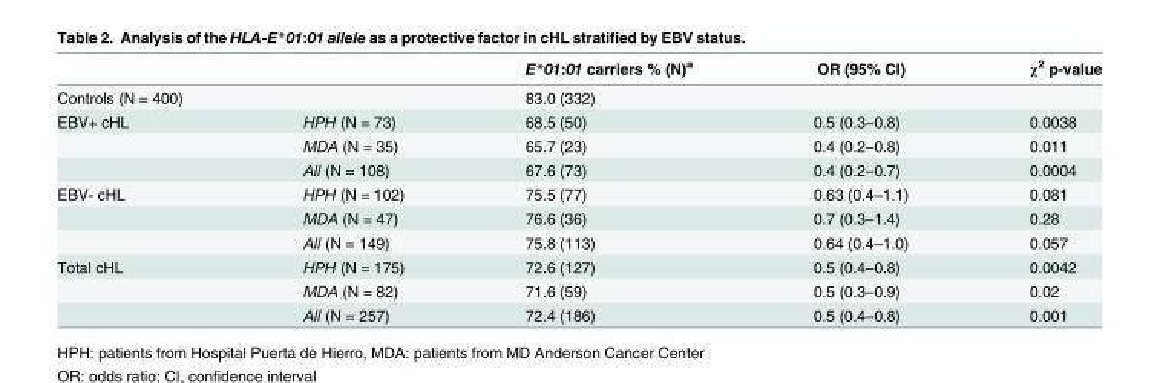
<table><thead><tr><td></td><td></td><td>E*01:01 carriers % (N)<sup>a</sup></td><td>OR (95% CI)</td><td>χ<sup>2</sup> p-value</td></tr></thead><tbody><tr><td>Controls (N = 400)</td><td></td><td>83.0 (332)</td><td></td><td></td></tr><tr><td rowspan="3">EBV+ cHL</td><td>HPH (N = 73)</td><td>68.5 (50)</td><td>0.5 (0.3–0.8)</td><td>0.0038</td></tr><tr><td>MDA (N = 35)</td><td>65.7 (23)</td><td>0.4 (0.2–0.8)</td><td>0.011</td></tr><tr><td>All (N = 108)</td><td>67.6 (73)</td><td>0.4 (0.2–0.7)</td><td>0.0004</td></tr><tr><td rowspan="3">EBV- cHL</td><td>HPH (N = 102)</td><td>75.5 (77)</td><td>0.63 (0.4–1.1)</td><td>0.081</td></tr><tr><td>MDA (N = 47)</td><td>76.6 (36)</td><td>0.7 (0.3–1.4)</td><td>0.28</td></tr><tr><td>All (N = 149)</td><td>75.8 (113)</td><td>0.64 (0.4–1.0)</td><td>0.057</td></tr><tr><td rowspan="3">Total cHL</td><td>HPH (N = 175)</td><td>72.6 (127)</td><td>0.5 (0.4–0.8)</td><td>0.0042</td></tr><tr><td>MDA (N = 82)</td><td>71.6 (59)</td><td>0.5 (0.3–0.9)</td><td>0.02</td></tr><tr><td>All (N = 257)</td><td>72.4 (186)</td><td>0.5 (0.4–0.8)</td><td>0.001</td></tr></tbody></table>